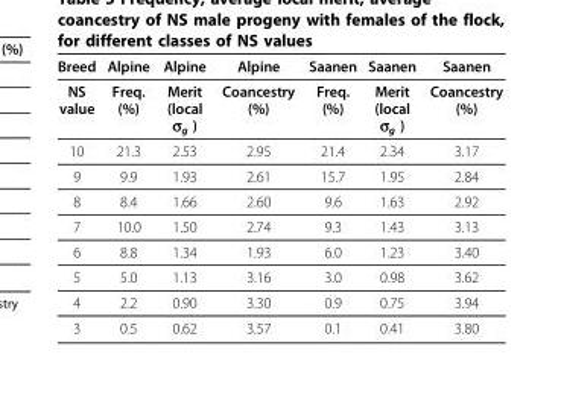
<table><thead><tr><td>Breed</td><td>Alpine</td><td>Alpine</td><td>Alpine</td><td>Saanen</td><td>Saanen</td><td>Saanen</td></tr></thead><tbody><tr><td>NS value</td><td>Freq. (%)</td><td>Merit (local σ<sub>g</sub> )</td><td>Coancestry (%)</td><td>Freq. (%)</td><td>Merit (local σ<sub>g</sub> )</td><td>Coancestry (%)</td></tr><tr><td>10</td><td>21.3</td><td>2.53</td><td>2.95</td><td>21.4</td><td>2.34</td><td>3.17</td></tr><tr><td>9</td><td>9.9</td><td>1.93</td><td>2.61</td><td>15.7</td><td>1.95</td><td>2.84</td></tr><tr><td>8</td><td>8.4</td><td>1.66</td><td>2.60</td><td>9.6</td><td>1.63</td><td>2.92</td></tr><tr><td>7</td><td>10.0</td><td>1.50</td><td>2.74</td><td>9.3</td><td>1.43</td><td>3.13</td></tr><tr><td>6</td><td>8.8</td><td>1.34</td><td>1.93</td><td>6.0</td><td>1.23</td><td>3.40</td></tr><tr><td>5</td><td>5.0</td><td>1.13</td><td>3.16</td><td>3.0</td><td>0.98</td><td>3.62</td></tr><tr><td>4</td><td>2.2</td><td>0.90</td><td>3.30</td><td>0.9</td><td>0.75</td><td>3.94</td></tr><tr><td>3</td><td>0.5</td><td>0.62</td><td>3.57</td><td>0.1</td><td>0.41</td><td>3.80</td></tr></tbody></table>